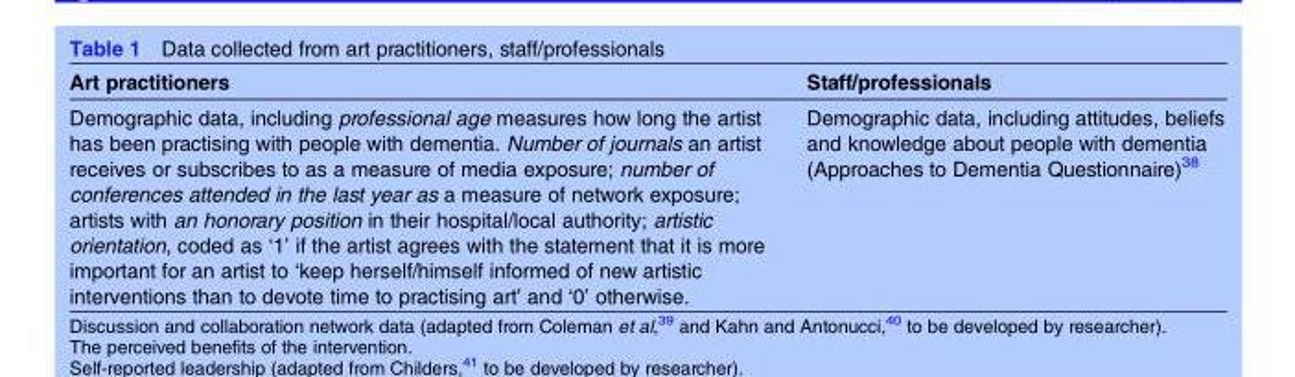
<table><thead><tr><td>Art practitioners</td><td>Staff/professionals</td></tr></thead><tbody><tr><td>Demographic data, including professional age measures how long the artist has been practising with people with dementia. Number of journals an artist receives or subscribes to as a measure of media exposure; number of conferences attended in the last year as a measure of network exposure; artists with an honorary position in their hospital/local authority; artistic orientation, coded as ‘1’ if the artist agrees with the statement that it is more important for an artist to ‘keep herself/himself informed of new artistic interventions than to devote time to practising art’ and ‘0’ otherwise.</td><td>Demographic data, including attitudes, beliefs and knowledge about people with dementia (Approaches to Dementia Questionnaire)<sup>38</sup></td></tr></tbody></table>